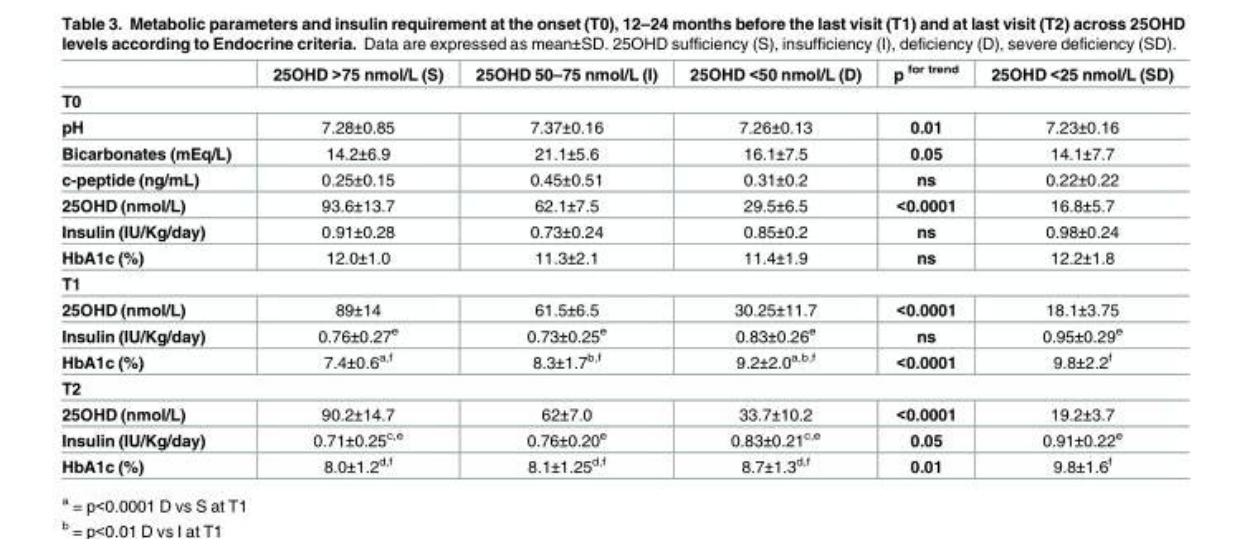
<table><thead><tr><td></td><td>25OHD &gt;75 nmol/L (S)</td><td>25OHD 50–75 nmol/L (I)</td><td>25OHD &lt;50 nmol/L (D)</td><td>p <sup>for trend</sup></td><td>25OHD &lt;25 nmol/L (SD)</td></tr></thead><tbody><tr><td colspan="6">T0</td></tr><tr><td>pH</td><td>7.28±0.85</td><td>7.37±0.16</td><td>7.26±0.13</td><td>0.01</td><td>7.23±0.16</td></tr><tr><td>Bicarbonates (mEq/L)</td><td>14.2±6.9</td><td>21.1±5.6</td><td>16.1±7.5</td><td>0.05</td><td>14.1±7.7</td></tr><tr><td>c-peptide (ng/mL)</td><td>0.25±0.15</td><td>0.45±0.51</td><td>0.31±0.2</td><td>ns</td><td>0.22±0.22</td></tr><tr><td>25OHD (nmol/L)</td><td>93.6±13.7</td><td>62.1±7.5</td><td>29.5±6.5</td><td>&lt;0.0001</td><td>16.8±5.7</td></tr><tr><td>Insulin (IU/Kg/day)</td><td>0.91±0.28</td><td>0.73±0.24</td><td>0.85±0.2</td><td>ns</td><td>0.98±0.24</td></tr><tr><td>HbA1c (%)</td><td>12.0±1.0</td><td>11.3±2.1</td><td>11.4±1.9</td><td>ns</td><td>12.2±1.8</td></tr><tr><td colspan="6">T1</td></tr><tr><td>25OHD (nmol/L)</td><td>89±14</td><td>61.5±6.5</td><td>30.25±11.7</td><td>&lt;0.0001</td><td>18.1±3.75</td></tr><tr><td>Insulin (IU/Kg/day)</td><td>0.76±0.27<sup>e</sup></td><td>0.73±0.25<sup>e</sup></td><td>0.83±0.26<sup>e</sup></td><td>ns</td><td>0.95±0.29<sup>e</sup></td></tr><tr><td>HbA1c (%)</td><td>7.4±0.6<sup>a,f</sup></td><td>8.3±1.7<sup>b,f</sup></td><td>9.2±2.0<sup>a,b,f</sup></td><td>&lt;0.0001</td><td>9.8±2.2<sup>f</sup></td></tr><tr><td colspan="6">T2</td></tr><tr><td>25OHD (nmol/L)</td><td>90.2±14.7</td><td>62±7.0</td><td>33.7±10.2</td><td>&lt;0.0001</td><td>19.2±3.7</td></tr><tr><td>Insulin (IU/Kg/day)</td><td>0.71±0.25<sup>c,e</sup></td><td>0.76±0.20<sup>e</sup></td><td>0.83±0.21<sup>c,e</sup></td><td>0.05</td><td>0.91±0.22<sup>e</sup></td></tr><tr><td>HbA1c (%)</td><td>8.0±1.2<sup>d,f</sup></td><td>8.1±1.25<sup>d,f</sup></td><td>8.7±1.3<sup>d,f</sup></td><td>0.01</td><td>9.8±1.6<sup>f</sup></td></tr></tbody></table>